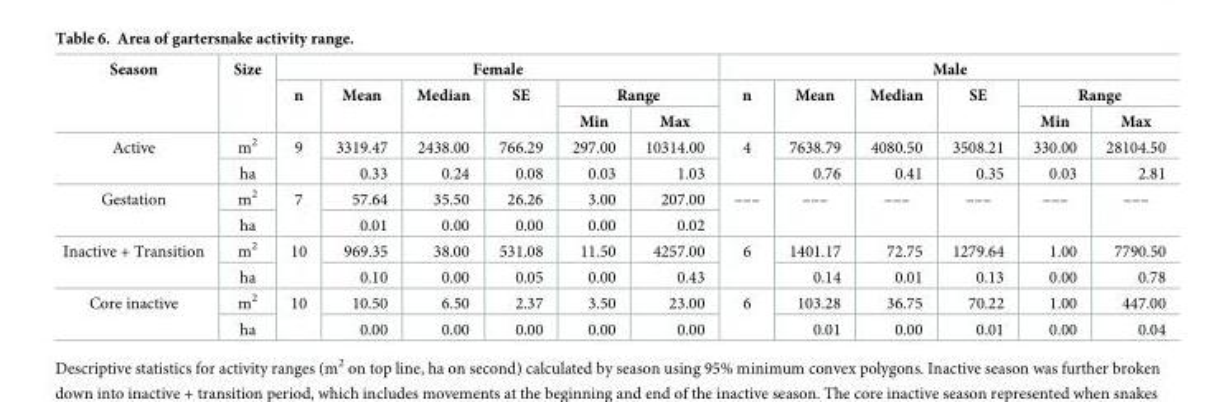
<table><thead><tr><td rowspan="3">Season</td><td rowspan="3">Size</td><td colspan="6">Female</td><td colspan="6">Male</td></tr><tr><td rowspan="2">n</td><td rowspan="2">Mean</td><td rowspan="2">Median</td><td rowspan="2">SE</td><td colspan="2">Range</td><td rowspan="2">n</td><td rowspan="2">Mean</td><td rowspan="2">Median</td><td rowspan="2">SE</td><td colspan="2">Range</td></tr><tr><td>Min</td><td>Max</td><td>Min</td><td>Max</td></tr></thead><tbody><tr><td rowspan="2">Active</td><td>m<sup>2</sup></td><td rowspan="2">9</td><td>3319.47</td><td>2438.00</td><td>766.29</td><td>297.00</td><td>10314.00</td><td rowspan="2">4</td><td>7638.79</td><td>4080.50</td><td>3508.21</td><td>330.00</td><td>28104.50</td></tr><tr><td>ha</td><td>0.33</td><td>0.24</td><td>0.08</td><td>0.03</td><td>1.03</td><td>0.76</td><td>0.41</td><td>0.35</td><td>0.03</td><td>2.81</td></tr><tr><td rowspan="2">Gestation</td><td>m<sup>2</sup></td><td rowspan="2">7</td><td>57.64</td><td>35.50</td><td>26.26</td><td>3.00</td><td>207.00</td><td rowspan="2">–––</td><td rowspan="2">–––</td><td rowspan="2">–––</td><td rowspan="2">–––</td><td rowspan="2">–––</td><td rowspan="2">–––</td></tr><tr><td>ha</td><td>0.01</td><td>0.00</td><td>0.00</td><td>0.00</td><td>0.02</td></tr><tr><td rowspan="2">Inactive + Transition</td><td>m<sup>2</sup></td><td rowspan="2">10</td><td>969.35</td><td>38.00</td><td>531.08</td><td>11.50</td><td>4257.00</td><td rowspan="2">6</td><td>1401.17</td><td>72.75</td><td>1279.64</td><td>1.00</td><td>7790.50</td></tr><tr><td>ha</td><td>0.10</td><td>0.00</td><td>0.05</td><td>0.00</td><td>0.43</td><td>0.14</td><td>0.01</td><td>0.13</td><td>0.00</td><td>0.78</td></tr><tr><td rowspan="2">Core inactive</td><td>m<sup>2</sup></td><td rowspan="2">10</td><td>10.50</td><td>6.50</td><td>2.37</td><td>3.50</td><td>23.00</td><td rowspan="2">6</td><td>103.28</td><td>36.75</td><td>70.22</td><td>1.00</td><td>447.00</td></tr><tr><td>ha</td><td>0.00</td><td>0.00</td><td>0.00</td><td>0.00</td><td>0.00</td><td>0.01</td><td>0.00</td><td>0.01</td><td>0.00</td><td>0.04</td></tr></tbody></table>